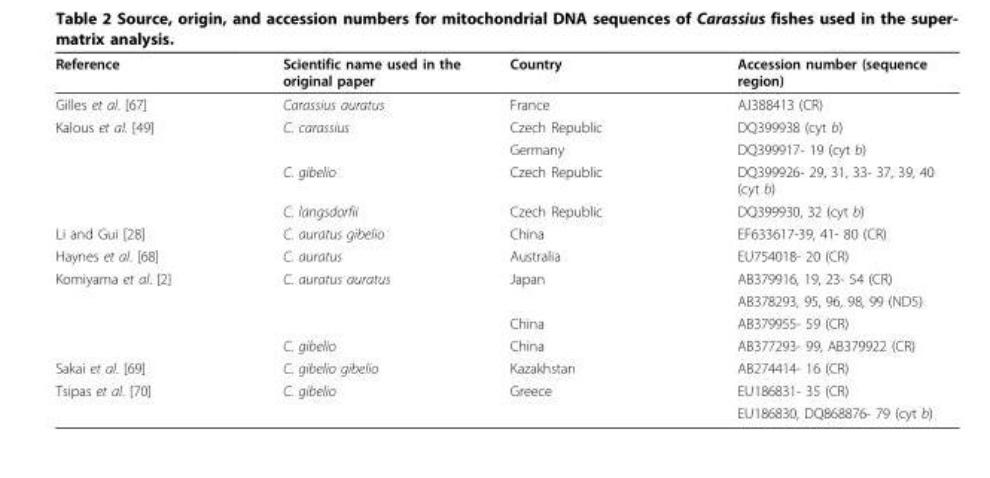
<table><thead><tr><td>Reference</td><td>Scientific name used in the original paper</td><td>Country</td><td>Accession number (sequence region)</td></tr></thead><tbody><tr><td>Gilles et al. [67]</td><td>Carassius auratus</td><td>France</td><td>AJ388413 (CR)</td></tr><tr><td rowspan="4">Kalous et al. [49]</td><td>C. carassius</td><td>Czech Republic</td><td>DQ399938 (cyt b)</td></tr><tr><td></td><td>Germany</td><td>DQ399917- 19 (cyt b)</td></tr><tr><td>C. gibelio</td><td>Czech Republic</td><td>DQ399926- 29, 31, 33- 37, 39, 40 (cyt b)</td></tr><tr><td>C. langsdorfii</td><td>Czech Republic</td><td>DQ399930, 32 (cyt b)</td></tr><tr><td>Li and Gui [28]</td><td>C. auratus gibelio</td><td>China</td><td>EF633617-39, 41- 80 (CR)</td></tr><tr><td>Haynes et al. [68]</td><td>C. auratus</td><td>Australia</td><td>EU754018- 20 (CR)</td></tr><tr><td rowspan="4">Komiyama et al. [2]</td><td>C. auratus auratus</td><td>Japan</td><td>AB379916, 19, 23- 54 (CR)</td></tr><tr><td></td><td></td><td>AB378293, 95, 96, 98, 99 (ND5)</td></tr><tr><td></td><td>China</td><td>AB379955- 59 (CR)</td></tr><tr><td>C. gibelio</td><td>China</td><td>AB377293- 99, AB379922 (CR)</td></tr><tr><td>Sakai et al. [69]</td><td>C. gibelio gibelio</td><td>Kazakhstan</td><td>AB274414- 16 (CR)</td></tr><tr><td rowspan="2">Tsipas et al. [70]</td><td>C. gibelio</td><td>Greece</td><td>EU186831- 35 (CR)</td></tr><tr><td></td><td></td><td>EU186830, DQ868876- 79 (cyt b)</td></tr></tbody></table>